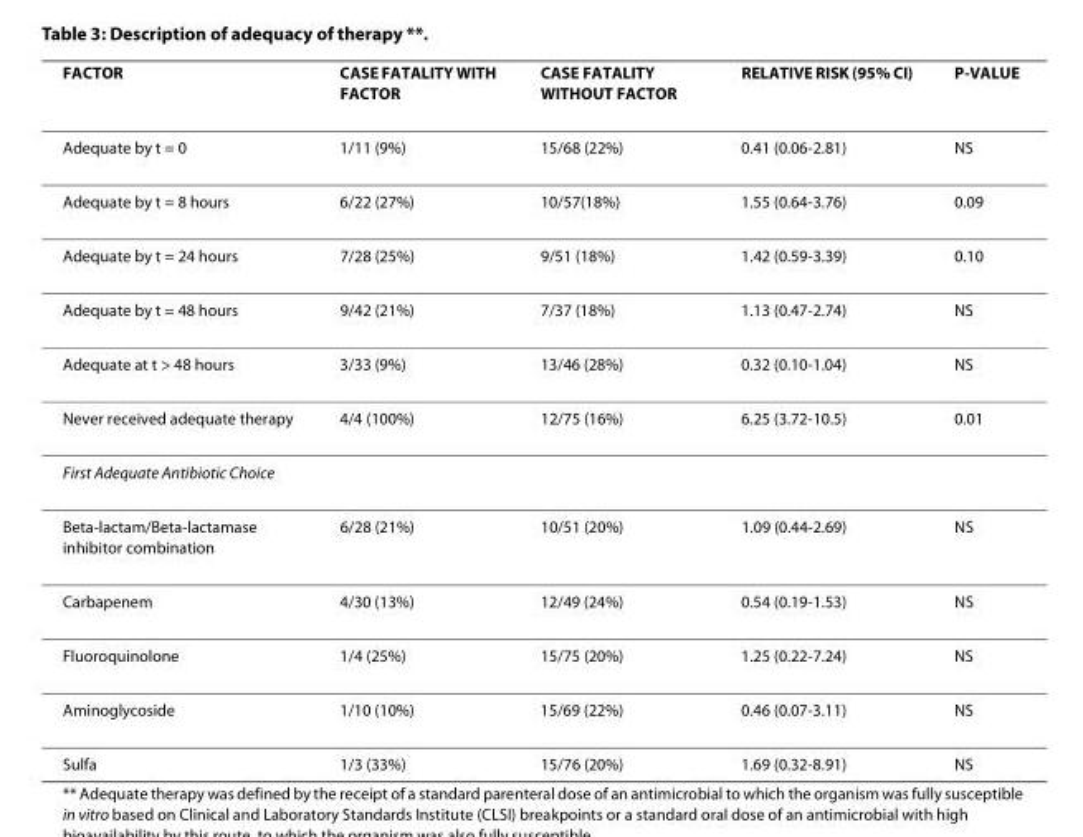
<table><thead><tr><td>FACTOR</td><td>CASE FATALITY WITH FACTOR</td><td>CASE FATALITY WITHOUT FACTOR</td><td>RELATIVE RISK (95% CI)</td><td>P-VALUE</td></tr></thead><tbody><tr><td>Adequate by t = 0</td><td>1/11 (9%)</td><td>15/68 (22%)</td><td>0.41 (0.06-2.81)</td><td>NS</td></tr><tr><td>Adequate by t = 8 hours</td><td>6/22 (27%)</td><td>10/57(18%)</td><td>1.55 (0.64-3.76)</td><td>0.09</td></tr><tr><td>Adequate by t = 24 hours</td><td>7/28 (25%)</td><td>9/51 (18%)</td><td>1.42 (0.59-3.39)</td><td>0.10</td></tr><tr><td>Adequate by t = 48 hours</td><td>9/42 (21%)</td><td>7/37 (18%)</td><td>1.13 (0.47-2.74)</td><td>NS</td></tr><tr><td>Adequate at t &gt; 48 hours</td><td>3/33 (9%)</td><td>13/46 (28%)</td><td>0.32 (0.10-1.04)</td><td>NS</td></tr><tr><td>Never received adequate therapy</td><td>4/4 (100%)</td><td>12/75 (16%)</td><td>6.25 (3.72-10.5)</td><td>0.01</td></tr><tr><td colspan="5">First Adequate Antibiotic Choice</td></tr><tr><td>Beta-lactam/Beta-lactamase inhibitor combination</td><td>6/28 (21%)</td><td>10/51 (20%)</td><td>1.09 (0.44-2.69)</td><td>NS</td></tr><tr><td>Carbapenem</td><td>4/30 (13%)</td><td>12/49 (24%)</td><td>0.54 (0.19-1.53)</td><td>NS</td></tr><tr><td>Fluoroquinolone</td><td>1/4 (25%)</td><td>15/75 (20%)</td><td>1.25 (0.22-7.24)</td><td>NS</td></tr><tr><td>Aminoglycoside</td><td>1/10 (10%)</td><td>15/69 (22%)</td><td>0.46 (0.07-3.11)</td><td>NS</td></tr><tr><td>Sulfa</td><td>1/3 (33%)</td><td>15/76 (20%)</td><td>1.69 (0.32-8.91)</td><td>NS</td></tr></tbody></table>